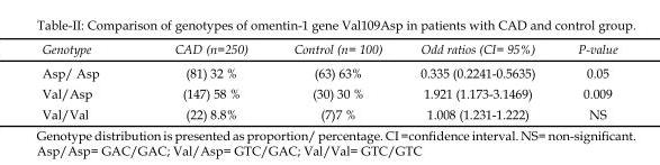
<table><thead><tr><td>Genotype</td><td>CAD (n=250)</td><td>Control (n= 100)</td><td>Odd ratios (CI= 95%)</td><td>P-value</td></tr></thead><tbody><tr><td>Asp/ Asp</td><td>(81) 32 %</td><td>(63) 63%</td><td>0.335 (0.2241-0.5635)</td><td>0.05</td></tr><tr><td>Val/Asp</td><td>(147) 58 %</td><td>(30) 30 %</td><td>1.921 (1.173-3.1469)</td><td>0.009</td></tr><tr><td>Val/Val</td><td>(22) 8.8%</td><td>(7)7 %</td><td>1.008 (1.231-1.222)</td><td>NS</td></tr></tbody></table>